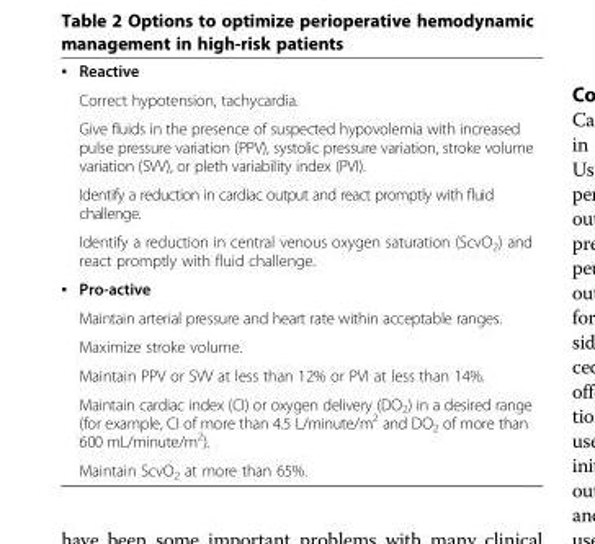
<table><tbody><tr><td rowspan="5">▪</td><td>Reactive</td></tr><tr><td>Correct hypotension, tachycardia.</td></tr><tr><td>Give fluids in the presence of suspected hypovolemia with increased pulse pressure variation (PPV), systolic pressure variation, stroke volume variation (SVV), or pleth variability index (PVI).</td></tr><tr><td>Identify a reduction in cardiac output and react promptly with fluid challenge.</td></tr><tr><td>Identify a reduction in central venous oxygen saturation (ScvO<sub>2</sub>) and react promptly with fluid challenge.</td></tr><tr><td rowspan="6">▪</td><td>Pro-active</td></tr><tr><td>Maintain arterial pressure and heart rate within acceptable ranges.</td></tr><tr><td>Maximize stroke volume.</td></tr><tr><td>Maintain PPV or SVV at less than 12% or PVI at less than 14%.</td></tr><tr><td>Maintain cardiac index (CI) or oxygen delivery (DO<sub>2</sub>) in a desired range (for example, CI of more than 4.5 L/minute/m<sup>2</sup> and DO<sub>2</sub> of more than 600 mL/minute/m<sup>2</sup>).</td></tr><tr><td>Maintain ScvO<sub>2</sub> at more than 65%.</td></tr></tbody></table>